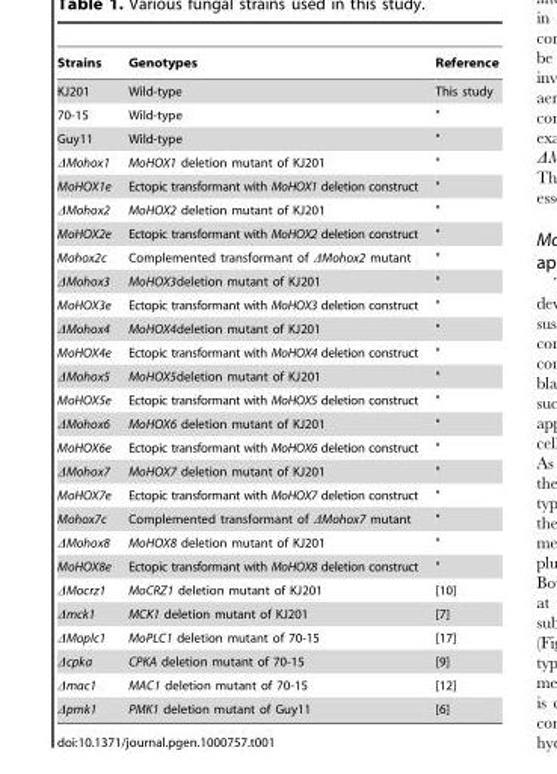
<table><thead><tr><td>Strains</td><td>Genotypes</td><td>Reference</td></tr></thead><tbody><tr><td>KJ201</td><td>Wild-type</td><td>This study</td></tr><tr><td>70-15</td><td>Wild-type</td><td>&quot;</td></tr><tr><td>Guy11</td><td>Wild-type</td><td>&quot;</td></tr><tr><td>ΔMohox1</td><td>MoHOX1 deletion mutant of KJ201</td><td>&quot;</td></tr><tr><td>MoHOX1e</td><td>Ectopic transformant with MoHOX1 deletion construct</td><td>&quot;</td></tr><tr><td>ΔMohox2</td><td>MoHOX2 deletion mutant of KJ201</td><td>&quot;</td></tr><tr><td>MoHOX2e</td><td>Ectopic transformant with MoHOX2 deletion construct</td><td>&quot;</td></tr><tr><td>Mohox2c</td><td>Complemented transformant of ΔMohox2 mutant</td><td>&quot;</td></tr><tr><td>ΔMohox3</td><td>MoHOX3deletion mutant of KJ201</td><td>&quot;</td></tr><tr><td>MoHOX3e</td><td>Ectopic transformant with MoHOX3 deletion construct</td><td>&quot;</td></tr><tr><td>ΔMohox4</td><td>MoHOX4deletion mutant of KJ201</td><td>&quot;</td></tr><tr><td>MoHOX4e</td><td>Ectopic transformant with MoHOX4 deletion construct</td><td>&quot;</td></tr><tr><td>ΔMohox5</td><td>MoHOX5deletion mutant of KJ201</td><td>&quot;</td></tr><tr><td>MoHOX5e</td><td>Ectopic transformant with MoHOX5 deletion construct</td><td>&quot;</td></tr><tr><td>ΔMohox6</td><td>MoHOX6 deletion mutant of KJ201</td><td>&quot;</td></tr><tr><td>MoHOX6e</td><td>Ectopic transformant with MoHOX6 deletion construct</td><td>&quot;</td></tr><tr><td>ΔMohox7</td><td>MoHOX7 deletion mutant of KJ201</td><td>&quot;</td></tr><tr><td>MoHOX7e</td><td>Ectopic transformant with MoHOX7 deletion construct</td><td>&quot;</td></tr><tr><td>Mohox7c</td><td>Complemented transformant of ΔMohox7 mutant</td><td>&quot;</td></tr><tr><td>ΔMohox8</td><td>MoHOX8 deletion mutant of KJ201</td><td>&quot;</td></tr><tr><td>MoHOX8e</td><td>Ectopic transformant with MoHOX8 deletion construct</td><td>&quot;</td></tr><tr><td>ΔMocrz1</td><td>MoCRZ1 deletion mutant of KJ201</td><td>[10]</td></tr><tr><td>Δmck1</td><td>MCK1 deletion mutant of KJ201</td><td>[7]</td></tr><tr><td>ΔMoplc1</td><td>MoPLC1 deletion mutant of 70-15</td><td>[17]</td></tr><tr><td>Δcpka</td><td>CPKA deletion mutant of 70-15</td><td>[9]</td></tr><tr><td>Δmac1</td><td>MAC1 deletion mutant of 70-15</td><td>[12]</td></tr><tr><td>Δpmk1</td><td>PMK1 deletion mutant of Guy11</td><td>[6]</td></tr></tbody></table>